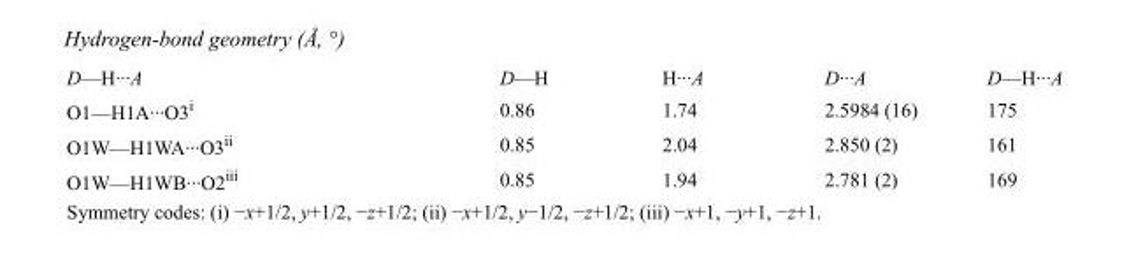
<table><tbody><tr><td>D—H···A</td><td>D—H</td><td>H···A</td><td>D···A</td><td>D—H···A</td></tr><tr><td>O1—H1A···O3<sup>i</sup></td><td>0.86</td><td>1.74</td><td>2.5984 (16)</td><td>175</td></tr><tr><td>O1W—H1WA···O3<sup>ii</sup></td><td>0.85</td><td>2.04</td><td>2.850 (2)</td><td>161</td></tr><tr><td>O1W—H1WB···O2<sup>iii</sup></td><td>0.85</td><td>1.94</td><td>2.781 (2)</td><td>169</td></tr></tbody></table>